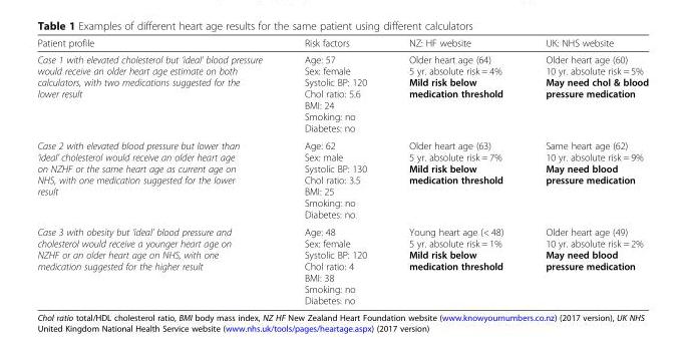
<table><thead><tr><td>Patient profile</td><td>Risk factors</td><td>NZ: HF website</td><td>UK: NHS website</td></tr></thead><tbody><tr><td>Case 1 with elevated cholesterol but ‘ideal’ blood pressure would receive an older heart age estimate on both calculators, with two medications suggested for the lower result</td><td>Age: 57 Sex: female Systolic BP: 120 Chol ratio: 5.6 BMI: 24 Smoking: no Diabetes: no</td><td>Older heart age (64) 5 yr. absolute risk = 4% Mild risk below medication threshold</td><td>Older heart age (60) 10 yr. absolute risk = 5% May need chol &amp; blood pressure medication</td></tr><tr><td>Case 2 with elevated blood pressure but lower than ‘ideal’ cholesterol would receive an older heart age on NZHF or the same heart age as current age on NHS, with one medication suggested for the lower result</td><td>Age: 62 Sex: male Systolic BP: 130 Chol ratio: 3.5 BMI: 25 Smoking: no Diabetes: no</td><td>Older heart age (63) 5 yr. absolute risk = 7% Mild risk below medication threshold</td><td>Same heart age (62) 10 yr. absolute risk = 9% May need blood pressure medication</td></tr><tr><td>Case 3 with obesity but ‘ideal’ blood pressure and cholesterol would receive a younger heart age on NZHF or an older heart age on NHS, with one medication suggested for the higher result</td><td>Age: 48 Sex: female Systolic BP: 120 Chol ratio: 4 BMI: 38 Smoking: no Diabetes: no</td><td>Young heart age (&lt; 48) 5 yr. absolute risk = 1% Mild risk below medication threshold</td><td>Older heart age (49) 10 yr. absolute risk = 2% May need blood pressure medication</td></tr></tbody></table>